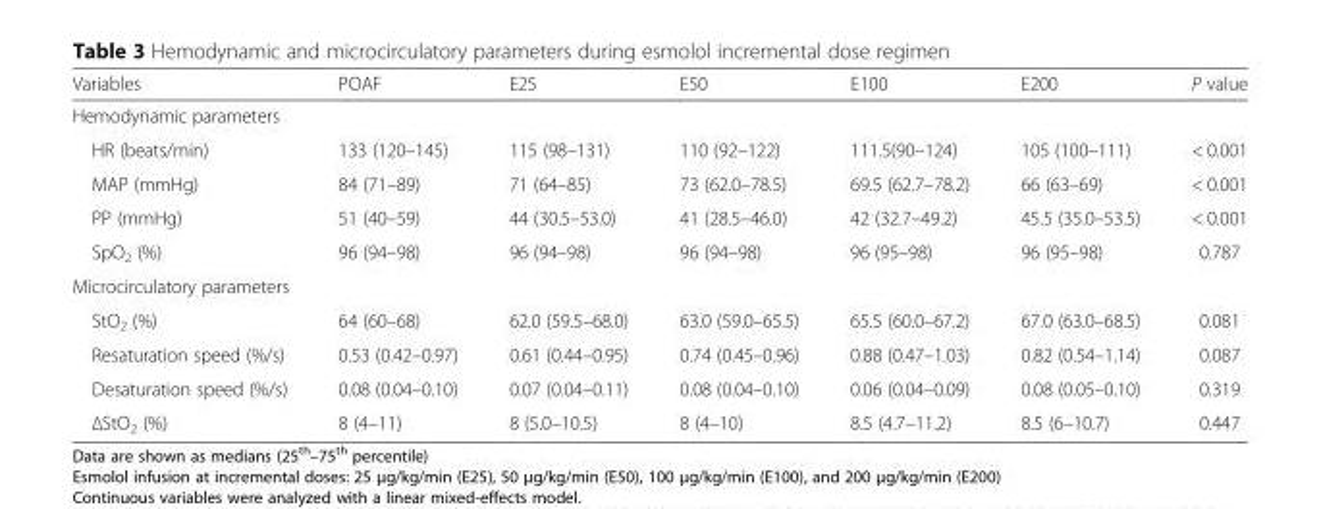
<table><thead><tr><td>Variables</td><td>POAF</td><td>E25</td><td>E50</td><td>E100</td><td>E200</td><td>P value</td></tr></thead><tbody><tr><td colspan="7">Hemodynamic parameters</td></tr><tr><td>HR (beats/min)</td><td>133 (120–145)</td><td>115 (98–131)</td><td>110 (92–122)</td><td>111.5(90–124)</td><td>105 (100–111)</td><td>&lt; 0.001</td></tr><tr><td>MAP (mmHg)</td><td>84 (71–89)</td><td>71 (64–85)</td><td>73 (62.0–78.5)</td><td>69.5 (62.7–78.2)</td><td>66 (63–69)</td><td>&lt; 0.001</td></tr><tr><td>PP (mmHg)</td><td>51 (40–59)</td><td>44 (30.5–53.0)</td><td>41 (28.5–46.0)</td><td>42 (32.7–49.2)</td><td>45.5 (35.0–53.5)</td><td>&lt; 0.001</td></tr><tr><td>SpO<sub>2</sub> (%)</td><td>96 (94–98)</td><td>96 (94–98)</td><td>96 (94–98)</td><td>96 (95–98)</td><td>96 (95–98)</td><td>0.787</td></tr><tr><td colspan="7">Microcirculatory parameters</td></tr><tr><td>StO<sub>2</sub> (%)</td><td>64 (60–68)</td><td>62.0 (59.5–68.0)</td><td>63.0 (59.0–65.5)</td><td>65.5 (60.0–67.2)</td><td>67.0 (63.0–68.5)</td><td>0.081</td></tr><tr><td>Resaturation speed (%/s)</td><td>0.53 (0.42–0.97)</td><td>0.61 (0.44–0.95)</td><td>0.74 (0.45–0.96)</td><td>0.88 (0.47–1.03)</td><td>0.82 (0.54–1.14)</td><td>0.087</td></tr><tr><td>Desaturation speed (%/s)</td><td>0.08 (0.04–0.10)</td><td>0.07 (0.04–0.11)</td><td>0.08 (0.04–0.10)</td><td>0.06 (0.04–0.09)</td><td>0.08 (0.05–0.10)</td><td>0.319</td></tr><tr><td>ΔStO2 (%)</td><td>8 (4–11)</td><td>8 (5.0–10.5)</td><td>8 (4–10)</td><td>8.5 (4.7–11.2)</td><td>8.5 (6–10.7)</td><td>0.447</td></tr></tbody></table>